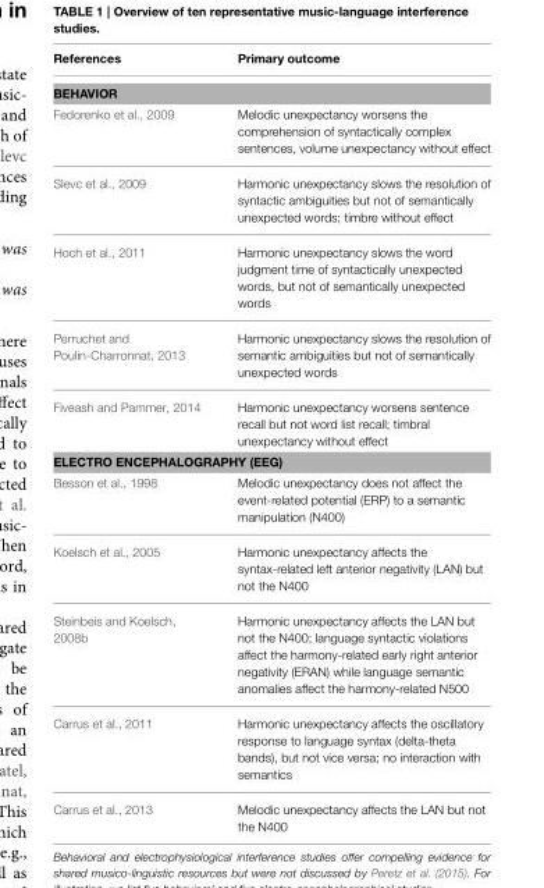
<table><thead><tr><td>References</td><td>Primary outcome</td></tr></thead><tbody><tr><td colspan="2">BEHAVIOR</td></tr><tr><td>Fedorenko et al., 2009</td><td>Melodic unexpectancy worsens the comprehension of syntactically complex sentences, volume unexpectancy without effect</td></tr><tr><td>Slevc et al., 2009</td><td>Harmonic unexpectancy slows the resolution of syntactic ambiguities but not of semantically unexpected words; timbre without effect</td></tr><tr><td>Hoch et al., 2011</td><td>Harmonic unexpectancy slows the word judgment time of syntactically unexpected words, but not of semantically unexpected words</td></tr><tr><td>Perruchet and Poulin-Charronnat, 2013</td><td>Harmonic unexpectancy slows the resolution of semantic ambiguities but not of semantically unexpected words</td></tr><tr><td>Fiveash and Pammer, 2014</td><td>Harmonic unexpectancy worsens sentence recall but not word list recall; timbral unexpectancy without effect</td></tr><tr><td colspan="2">ELECTRO ENCEPHALOGRAPHY (EEG)</td></tr><tr><td>Besson et al., 1998</td><td>Melodic unexpectancy does not affect the event-related potential (ERP) to a semantic manipulation (N400)</td></tr><tr><td>Koelsch et al., 2005</td><td>Harmonic unexpectancy affects the syntax-related left anterior negativity (LAN) but not the N400</td></tr><tr><td>Steinbeis and Koelsch, 2008b</td><td>Harmonic unexpectancy affects the LAN but not the N400; language syntactic violations affect the harmony-related early right anterior negativity (ERAN) while language semantic anomalies affect the harmony-related N500</td></tr><tr><td>Carrus et al., 2011</td><td>Harmonic unexpectancy affects the oscillatory response to language syntax (delta-theta bands), but not vice versa; no interaction with semantics</td></tr><tr><td>Carrus et al., 2013</td><td>Melodic unexpectancy affects the LAN but not the N400</td></tr></tbody></table>